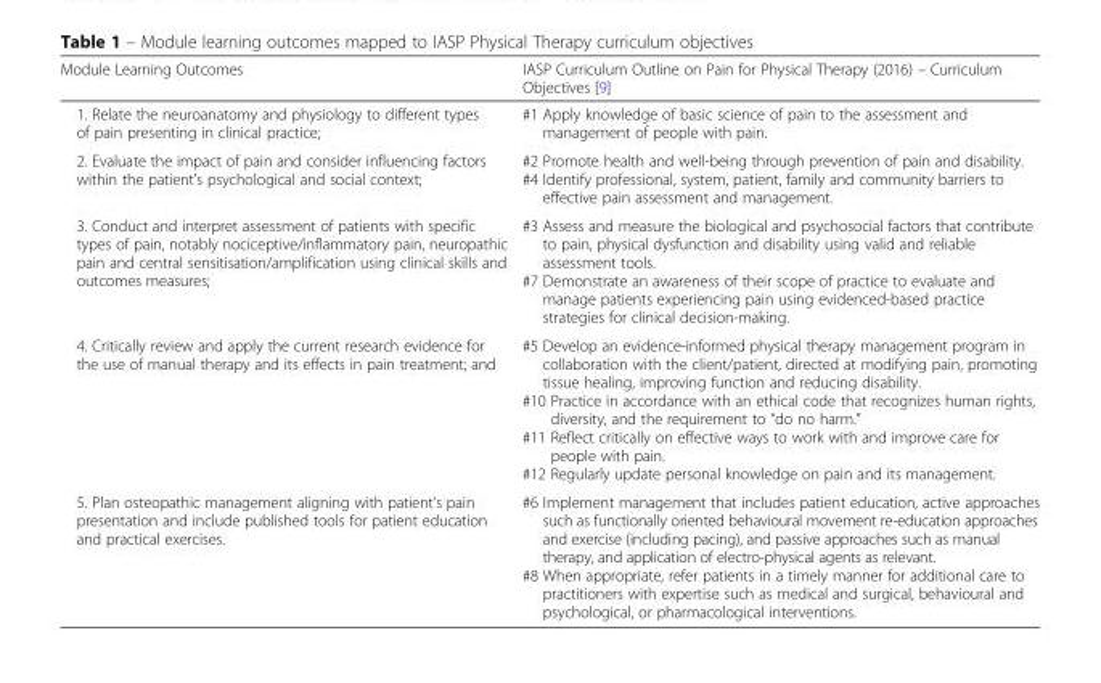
<table><thead><tr><td>Module Learning Outcomes</td><td>IASP Curriculum Outline on Pain for Physical Therapy (2016) – Curriculum Objectives [9]</td></tr></thead><tbody><tr><td>1. Relate the neuroanatomy and physiology to different types of pain presenting in clinical practice;</td><td>#1 Apply knowledge of basic science of pain to the assessment and management of people with pain.</td></tr><tr><td>2. Evaluate the impact of pain and consider influencing factors within the patient’s psychological and social context;</td><td>#2 Promote health and well-being through prevention of pain and disability. #4 Identify professional, system, patient, family and community barriers to effective pain assessment and management.</td></tr><tr><td>3. Conduct and interpret assessment of patients with specific types of pain, notably nociceptive/inflammatory pain, neuropathic pain and central sensitisation/amplification using clinical skills and outcomes measures;</td><td>#3 Assess and measure the biological and psychosocial factors that contribute to pain, physical dysfunction and disability using valid and reliable assessment tools. #7 Demonstrate an awareness of their scope of practice to evaluate and manage patients experiencing pain using evidenced-based practice strategies for clinical decision-making.</td></tr><tr><td>4. Critically review and apply the current research evidence for the use of manual therapy and its effects in pain treatment; and</td><td>#5 Develop an evidence-informed physical therapy management program in collaboration with the client/patient, directed at modifying pain, promoting tissue healing, improving function and reducing disability. #10 Practice in accordance with an ethical code that recognizes human rights, diversity, and the requirement to “do no harm.” #11 Reflect critically on effective ways to work with and improve care for people with pain. #12 Regularly update personal knowledge on pain and its management.</td></tr><tr><td>5. Plan osteopathic management aligning with patient’s pain presentation and include published tools for patient education and practical exercises.</td><td>#6 Implement management that includes patient education, active approaches such as functionally oriented behavioural movement re-education approaches and exercise (including pacing), and passive approaches such as manual therapy, and application of electro-physical agents as relevant. #8 When appropriate, refer patients in a timely manner for additional care to practitioners with expertise such as medical and surgical, behavioural and psychological, or pharmacological interventions.</td></tr></tbody></table>